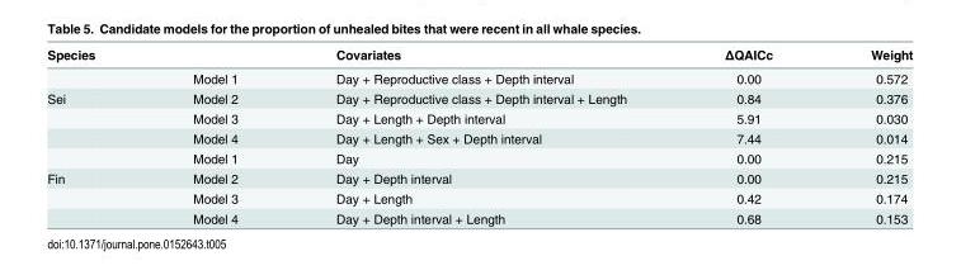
<table><thead><tr><td>Species</td><td></td><td>Covariates</td><td>ΔQAICc</td><td>Weight</td></tr></thead><tbody><tr><td></td><td>Model 1</td><td>Day + Reproductive class + Depth interval</td><td>0.00</td><td>0.572</td></tr><tr><td rowspan="4">Sei</td><td>Model 2</td><td>Day + Reproductive class + Depth interval + Length</td><td>0.84</td><td>0.376</td></tr><tr><td>Model 3</td><td>Day + Length + Depth interval</td><td>5.91</td><td>0.030</td></tr><tr><td>Model 4</td><td>Day + Length + Sex + Depth interval</td><td>7.44</td><td>0.014</td></tr><tr><td>Model 1</td><td>Day</td><td>0.00</td><td>0.215</td></tr><tr><td rowspan="3">Fin</td><td>Model 2</td><td>Day + Depth interval</td><td>0.00</td><td>0.215</td></tr><tr><td>Model 3</td><td>Day + Length</td><td>0.42</td><td>0.174</td></tr><tr><td>Model 4</td><td>Day + Depth interval + Length</td><td>0.68</td><td>0.153</td></tr></tbody></table>